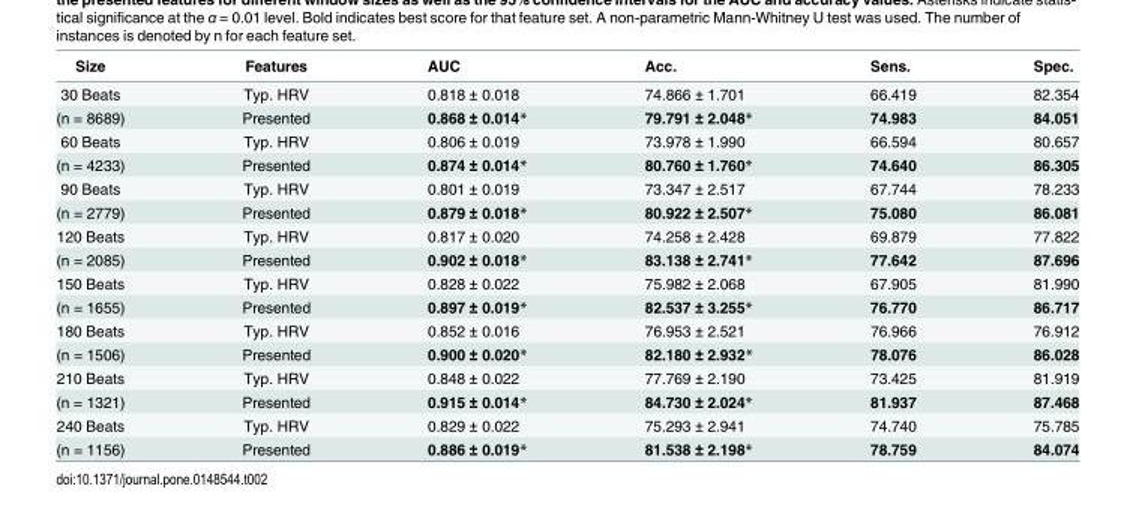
<table><thead><tr><td>Size</td><td>Features</td><td>AUC</td><td>Acc.</td><td>Sens.</td><td>Spec.</td></tr></thead><tbody><tr><td>30 Beats</td><td>Typ. HRV</td><td>0.818 ± 0.018</td><td>74.866 ± 1.701</td><td>66.419</td><td>82.354</td></tr><tr><td>(n = 8689)</td><td>Presented</td><td>0.868 ± 0.014*</td><td>79.791 ± 2.048*</td><td>74.983</td><td>84.051</td></tr><tr><td>60 Beats</td><td>Typ. HRV</td><td>0.806 ± 0.019</td><td>73.978 ± 1.990</td><td>66.594</td><td>80.657</td></tr><tr><td>(n = 4233)</td><td>Presented</td><td>0.874 ± 0.014*</td><td>80.760 ± 1.760*</td><td>74.640</td><td>86.305</td></tr><tr><td>90 Beats</td><td>Typ. HRV</td><td>0.801 ± 0.019</td><td>73.347 ± 2.517</td><td>67.744</td><td>78.233</td></tr><tr><td>(n = 2779)</td><td>Presented</td><td>0.879 ± 0.018*</td><td>80.922 ± 2.507*</td><td>75.080</td><td>86.081</td></tr><tr><td>120 Beats</td><td>Typ. HRV</td><td>0.817 ± 0.020</td><td>74.258 ± 2.428</td><td>69.879</td><td>77.822</td></tr><tr><td>(n = 2085)</td><td>Presented</td><td>0.902 ± 0.018*</td><td>83.138 ± 2.741*</td><td>77.642</td><td>87.696</td></tr><tr><td>150 Beats</td><td>Typ. HRV</td><td>0.828 ± 0.022</td><td>75.982 ± 2.068</td><td>67.905</td><td>81.990</td></tr><tr><td>(n = 1655)</td><td>Presented</td><td>0.897 ± 0.019*</td><td>82.537 ± 3.255*</td><td>76.770</td><td>86.717</td></tr><tr><td>180 Beats</td><td>Typ. HRV</td><td>0.852 ± 0.016</td><td>76.953 ± 2.521</td><td>76.966</td><td>76.912</td></tr><tr><td>(n = 1506)</td><td>Presented</td><td>0.900 ± 0.020*</td><td>82.180 ± 2.932*</td><td>78.076</td><td>86.028</td></tr><tr><td>210 Beats</td><td>Typ. HRV</td><td>0.848 ± 0.022</td><td>77.769 ± 2.190</td><td>73.425</td><td>81.919</td></tr><tr><td>(n = 1321)</td><td>Presented</td><td>0.915 ± 0.014*</td><td>84.730 ± 2.024*</td><td>81.937</td><td>87.468</td></tr><tr><td>240 Beats</td><td>Typ. HRV</td><td>0.829 ± 0.022</td><td>75.293 ± 2.941</td><td>74.740</td><td>75.785</td></tr><tr><td>(n = 1156)</td><td>Presented</td><td>0.886 ± 0.019*</td><td>81.538 ± 2.198*</td><td>78.759</td><td>84.074</td></tr></tbody></table>